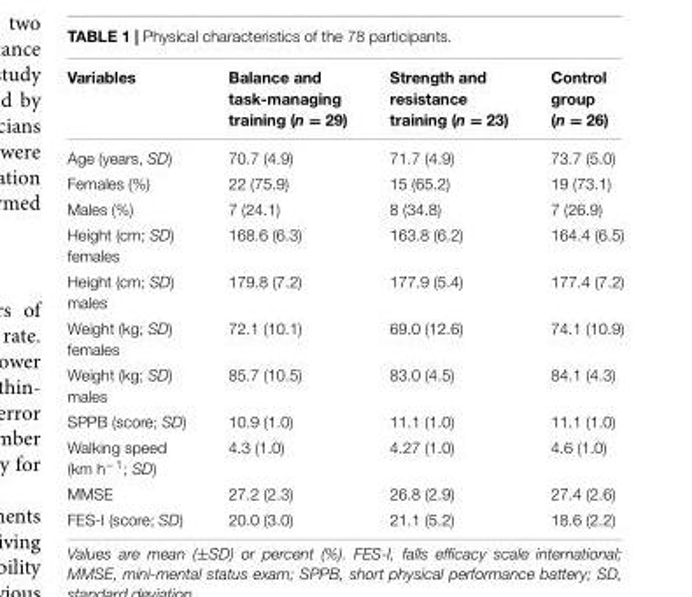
<table><thead><tr><td>Variables</td><td>Balance and task-managing training (n = 29)</td><td>Strength and resistance training (n = 23)</td><td>Control group (n = 26)</td></tr></thead><tbody><tr><td>Age (years, SD)</td><td>70.7 (4.9)</td><td>71.7 (4.9)</td><td>73.7 (5.0)</td></tr><tr><td>Females (%)</td><td>22 (75.9)</td><td>15 (65.2)</td><td>19 (73.1)</td></tr><tr><td>Males (%)</td><td>7 (24.1)</td><td>8 (34.8)</td><td>7 (26.9)</td></tr><tr><td>Height (cm; SD) females</td><td>168.6 (6.3)</td><td>163.8 (6.2)</td><td>164.4 (6.5)</td></tr><tr><td>Height (cm; SD) males</td><td>179.8 (7.2)</td><td>177.9 (5.4)</td><td>177.4 (7.2)</td></tr><tr><td>Weight (kg; SD) females</td><td>72.1 (10.1)</td><td>69.0 (12.6)</td><td>74.1 (10.9)</td></tr><tr><td>Weight (kg; SD) males</td><td>85.7 (10.5)</td><td>83.0 (4.5)</td><td>84.1 (4.3)</td></tr><tr><td>SPPB (score; SD)</td><td>10.9 (1.0)</td><td>11.1 (1.0)</td><td>11.1 (1.0)</td></tr><tr><td>Walking speed (km h<sup>−1</sup>; SD)</td><td>4.3 (1.0)</td><td>4.27 (1.0)</td><td>4.6 (1.0)</td></tr><tr><td>MMSE</td><td>27.2 (2.3)</td><td>26.8 (2.9)</td><td>27.4 (2.6)</td></tr><tr><td>FES-I (score; SD)</td><td>20.0 (3.0)</td><td>21.1 (5.2)</td><td>18.6 (2.2)</td></tr></tbody></table>